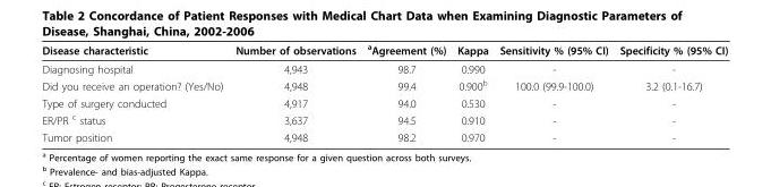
<table><thead><tr><td>Disease characteristic</td><td>Number of observations</td><td><sup>a</sup>Agreement (%)</td><td>Kappa</td><td>Sensitivity % (95% CI)</td><td>Specificity % (95% CI)</td></tr></thead><tbody><tr><td>Diagnosing hospital</td><td>4,943</td><td>98.7</td><td>0.990</td><td>-</td><td>-</td></tr><tr><td>Did you receive an operation? (Yes/No)</td><td>4,948</td><td>99.4</td><td>0.900<sup>b</sup></td><td>100.0 (99.9-100.0)</td><td>3.2 (0.1-16.7)</td></tr><tr><td>Type of surgery conducted</td><td>4,917</td><td>94.0</td><td>0.530</td><td>-</td><td>-</td></tr><tr><td>ER/PR <sup>c</sup> status</td><td>3,637</td><td>94.5</td><td>0.910</td><td>-</td><td>-</td></tr><tr><td>Tumor position</td><td>4,948</td><td>98.2</td><td>0.970</td><td>-</td><td>-</td></tr></tbody></table>